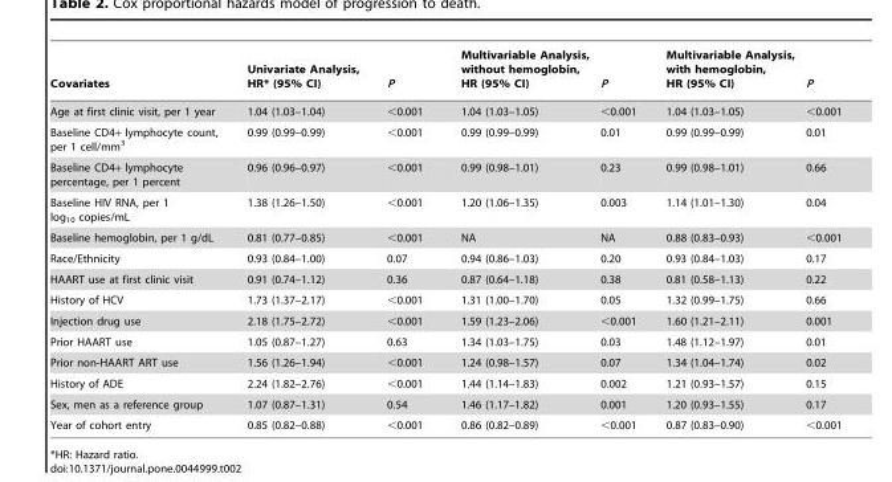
<table><thead><tr><td>Covariates</td><td>Univariate Analysis, HR* (95% CI)</td><td>P</td><td>Multivariable Analysis, without hemoglobin, HR (95% CI)</td><td>P</td><td>Multivariable Analysis, with hemoglobin, HR (95% CI)</td><td>P</td></tr></thead><tbody><tr><td>Age at first clinic visit, per 1 year</td><td>1.04 (1.03–1.04)</td><td>&lt;0.001</td><td>1.04 (1.03–1.05)</td><td>&lt;0.001</td><td>1.04 (1.03–1.05)</td><td>&lt;0.001</td></tr><tr><td>Baseline CD4+ lymphocyte count, per 1 cell/mm<sup>3</sup></td><td>0.99 (0.99–0.99)</td><td>&lt;0.001</td><td>0.99 (0.99–0.99)</td><td>0.01</td><td>0.99 (0.99–0.99)</td><td>0.01</td></tr><tr><td>Baseline CD4+ lymphocyte percentage, per 1 percent</td><td>0.96 (0.96–0.97)</td><td>&lt;0.001</td><td>0.99 (0.98–1.01)</td><td>0.23</td><td>0.99 (0.98–1.01)</td><td>0.66</td></tr><tr><td>Baseline HIV RNA, per 1 log<sub>10</sub> copies/mL</td><td>1.38 (1.26–1.50)</td><td>&lt;0.001</td><td>1.20 (1.06–1.35)</td><td>0.003</td><td>1.14 (1.01–1.30)</td><td>0.04</td></tr><tr><td>Baseline hemoglobin, per 1 g/dL</td><td>0.81 (0.77–0.85)</td><td>&lt;0.001</td><td>NA</td><td>NA</td><td>0.88 (0.83–0.93)</td><td>&lt;0.001</td></tr><tr><td>Race/Ethnicity</td><td>0.93 (0.84–1.00)</td><td>0.07</td><td>0.94 (0.86–1.03)</td><td>0.20</td><td>0.93 (0.84–1.03)</td><td>0.17</td></tr><tr><td>HAART use at first clinic visit</td><td>0.91 (0.74–1.12)</td><td>0.36</td><td>0.87 (0.64–1.18)</td><td>0.38</td><td>0.81 (0.58–1.13)</td><td>0.22</td></tr><tr><td>History of HCV</td><td>1.73 (1.37–2.17)</td><td>&lt;0.001</td><td>1.31 (1.00–1.70)</td><td>0.05</td><td>1.32 (0.99–1.75)</td><td>0.66</td></tr><tr><td>Injection drug use</td><td>2.18 (1.75–2.72)</td><td>&lt;0.001</td><td>1.59 (1.23–2.06)</td><td>&lt;0.001</td><td>1.60 (1.21–2.11)</td><td>0.001</td></tr><tr><td>Prior HAART use</td><td>1.05 (0.87–1.27)</td><td>0.63</td><td>1.34 (1.03–1.75)</td><td>0.03</td><td>1.48 (1.12–1.97)</td><td>0.01</td></tr><tr><td>Prior non-HAART ART use</td><td>1.56 (1.26–1.94)</td><td>&lt;0.001</td><td>1.24 (0.98–1.57)</td><td>0.07</td><td>1.34 (1.04–1.74)</td><td>0.02</td></tr><tr><td>History of ADE</td><td>2.24 (1.82–2.76)</td><td>&lt;0.001</td><td>1.44 (1.14–1.83)</td><td>0.002</td><td>1.21 (0.93–1.57)</td><td>0.15</td></tr><tr><td>Sex, men as a reference group</td><td>1.07 (0.87–1.31)</td><td>0.54</td><td>1.46 (1.17–1.82)</td><td>0.001</td><td>1.20 (0.93–1.55)</td><td>0.17</td></tr><tr><td>Year of cohort entry</td><td>0.85 (0.82–0.88)</td><td>&lt;0.001</td><td>0.86 (0.82–0.89)</td><td>&lt;0.001</td><td>0.87 (0.83–0.90)</td><td>&lt;0.001</td></tr></tbody></table>